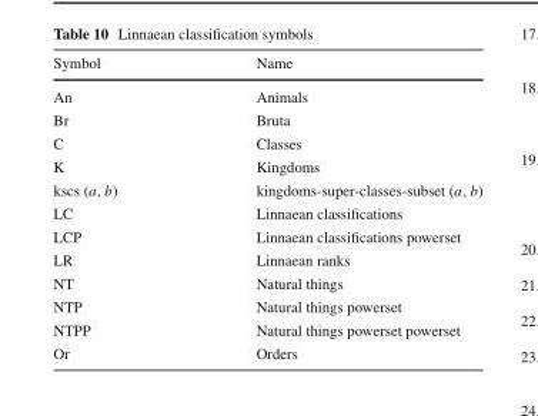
<table><thead><tr><td>Symbol</td><td>Name</td></tr></thead><tbody><tr><td>An</td><td>Animals</td></tr><tr><td>Br</td><td>Bruta</td></tr><tr><td>C</td><td>Classes</td></tr><tr><td>K</td><td>Kingdoms</td></tr><tr><td>kscs (a, b)</td><td>kingdoms-super-classes-subset (a, b)</td></tr><tr><td>LC</td><td>Linnaean classifications</td></tr><tr><td>LCP</td><td>Linnaean classifications powerset</td></tr><tr><td>LR</td><td>Linnaean ranks</td></tr><tr><td>NT</td><td>Natural things</td></tr><tr><td>NTP</td><td>Natural things powerset</td></tr><tr><td>NTPP</td><td>Natural things powerset powerset</td></tr><tr><td>Or</td><td>Orders</td></tr></tbody></table>